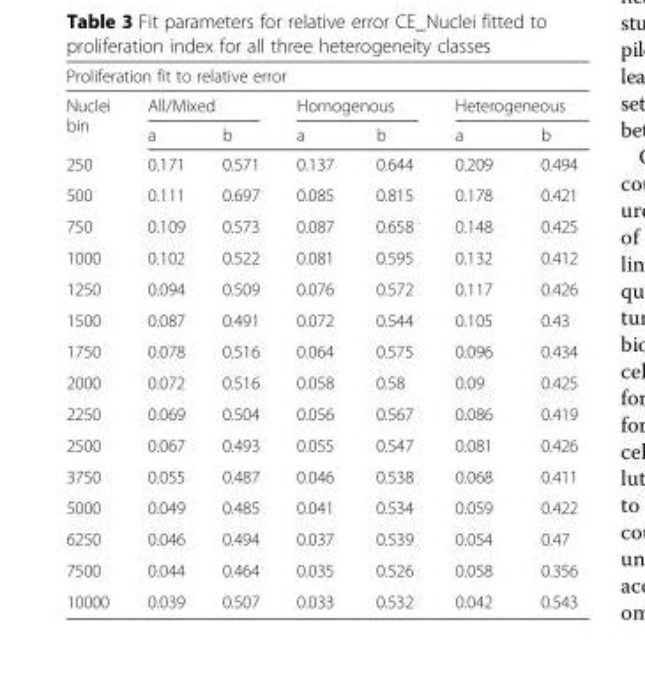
<table><thead><tr><td colspan="7">Proliferation fit to relative error</td></tr><tr><td rowspan="2">Nuclei bin</td><td colspan="2">All/Mixed</td><td colspan="2">Homogenous</td><td colspan="2">Heterogeneous</td></tr><tr><td>a</td><td>b</td><td>a</td><td>b</td><td>a</td><td>b</td></tr></thead><tbody><tr><td>250</td><td>0.171</td><td>0.571</td><td>0.137</td><td>0.644</td><td>0.209</td><td>0.494</td></tr><tr><td>500</td><td>0.111</td><td>0.697</td><td>0.085</td><td>0.815</td><td>0.178</td><td>0.421</td></tr><tr><td>750</td><td>0.109</td><td>0.573</td><td>0.087</td><td>0.658</td><td>0.148</td><td>0.425</td></tr><tr><td>1000</td><td>0.102</td><td>0.522</td><td>0.081</td><td>0.595</td><td>0.132</td><td>0.412</td></tr><tr><td>1250</td><td>0.094</td><td>0.509</td><td>0.076</td><td>0.572</td><td>0.117</td><td>0.426</td></tr><tr><td>1500</td><td>0.087</td><td>0.491</td><td>0.072</td><td>0.544</td><td>0.105</td><td>0.43</td></tr><tr><td>1750</td><td>0.078</td><td>0.516</td><td>0.064</td><td>0.575</td><td>0.096</td><td>0.434</td></tr><tr><td>2000</td><td>0.072</td><td>0.516</td><td>0.058</td><td>0.58</td><td>0.09</td><td>0.425</td></tr><tr><td>2250</td><td>0.069</td><td>0.504</td><td>0.056</td><td>0.567</td><td>0.086</td><td>0.419</td></tr><tr><td>2500</td><td>0.067</td><td>0.493</td><td>0.055</td><td>0.547</td><td>0.081</td><td>0.426</td></tr><tr><td>3750</td><td>0.055</td><td>0.487</td><td>0.046</td><td>0.538</td><td>0.068</td><td>0.411</td></tr><tr><td>5000</td><td>0.049</td><td>0.485</td><td>0.041</td><td>0.534</td><td>0.059</td><td>0.422</td></tr><tr><td>6250</td><td>0.046</td><td>0.494</td><td>0.037</td><td>0.539</td><td>0.054</td><td>0.47</td></tr><tr><td>7500</td><td>0.044</td><td>0.464</td><td>0.035</td><td>0.526</td><td>0.058</td><td>0.356</td></tr><tr><td>10000</td><td>0.039</td><td>0.507</td><td>0.033</td><td>0.532</td><td>0.042</td><td>0.543</td></tr></tbody></table>